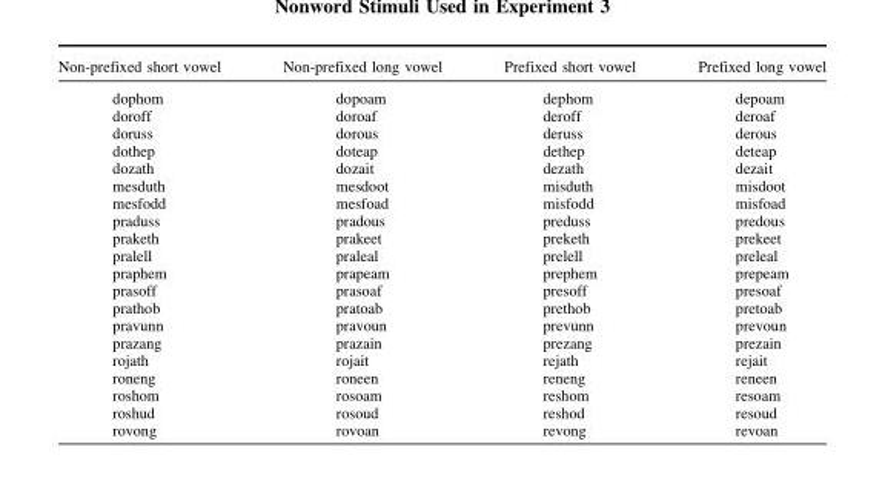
<table><thead><tr><td>Non-prefixed short vowel</td><td>Non-prefixed long vowel</td><td>Prefixed short vowel</td><td>Prefixed long vowel</td></tr></thead><tbody><tr><td>dophom</td><td>dopoam</td><td>dephom</td><td>depoam</td></tr><tr><td>doroff</td><td>doroaf</td><td>deroff</td><td>deroaf</td></tr><tr><td>doruss</td><td>dorous</td><td>deruss</td><td>derous</td></tr><tr><td>dothep</td><td>doteap</td><td>dethep</td><td>deteap</td></tr><tr><td>dozath</td><td>dozait</td><td>dezath</td><td>dezait</td></tr><tr><td>mesduth</td><td>mesdoot</td><td>misduth</td><td>misdoot</td></tr><tr><td>mesfodd</td><td>mesfoad</td><td>misfodd</td><td>misfoad</td></tr><tr><td>praduss</td><td>pradous</td><td>preduss</td><td>predous</td></tr><tr><td>praketh</td><td>prakeet</td><td>preketh</td><td>prekeet</td></tr><tr><td>pralell</td><td>praleal</td><td>prelell</td><td>preleal</td></tr><tr><td>praphem</td><td>prapeam</td><td>prephem</td><td>prepeam</td></tr><tr><td>prasoff</td><td>prasoaf</td><td>presoff</td><td>presoaf</td></tr><tr><td>prathob</td><td>pratoab</td><td>prethob</td><td>pretoab</td></tr><tr><td>pravunn</td><td>pravoun</td><td>prevunn</td><td>prevoun</td></tr><tr><td>prazang</td><td>prazain</td><td>prezang</td><td>prezain</td></tr><tr><td>rojath</td><td>rojait</td><td>rejath</td><td>rejait</td></tr><tr><td>roneng</td><td>roneen</td><td>reneng</td><td>reneen</td></tr><tr><td>roshom</td><td>rosoam</td><td>reshom</td><td>resoam</td></tr><tr><td>roshud</td><td>rosoud</td><td>reshod</td><td>resoud</td></tr><tr><td>rovong</td><td>rovoan</td><td>revong</td><td>revoan</td></tr></tbody></table>